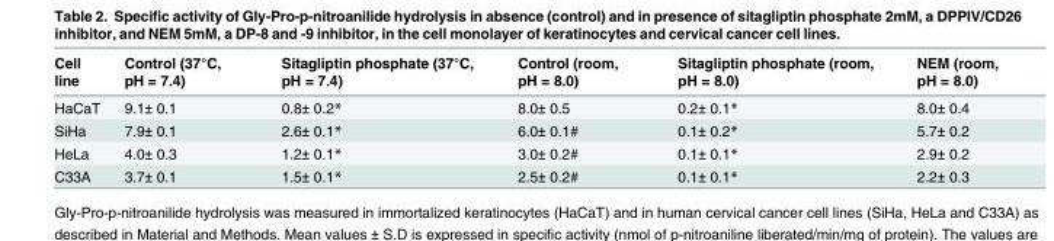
<table><thead><tr><td>Cell line</td><td>Control (37°C, pH = 7.4)</td><td>Sitagliptin phosphate (37°C, pH = 7.4)</td><td>Control (room, pH = 8.0)</td><td>Sitagliptin phosphate (room, pH = 8.0)</td><td>NEM (room, pH = 8.0)</td></tr></thead><tbody><tr><td>HaCaT</td><td>9.1± 0.1</td><td>0.8± 0.2*</td><td>8.0± 0.5</td><td>0.2± 0.1*</td><td>8.0± 0.4</td></tr><tr><td>SiHa</td><td>7.9± 0.1</td><td>2.6± 0.1*</td><td>6.0± 0.1#</td><td>0.1± 0.2*</td><td>5.7± 0.2</td></tr><tr><td>HeLa</td><td>4.0± 0.3</td><td>1.2± 0.1*</td><td>3.0± 0.2#</td><td>0.1± 0.1*</td><td>2.9± 0.2</td></tr><tr><td>C33A</td><td>3.7± 0.1</td><td>1.5± 0.1*</td><td>2.5± 0.2#</td><td>0.1± 0.1*</td><td>2.2± 0.3</td></tr></tbody></table>